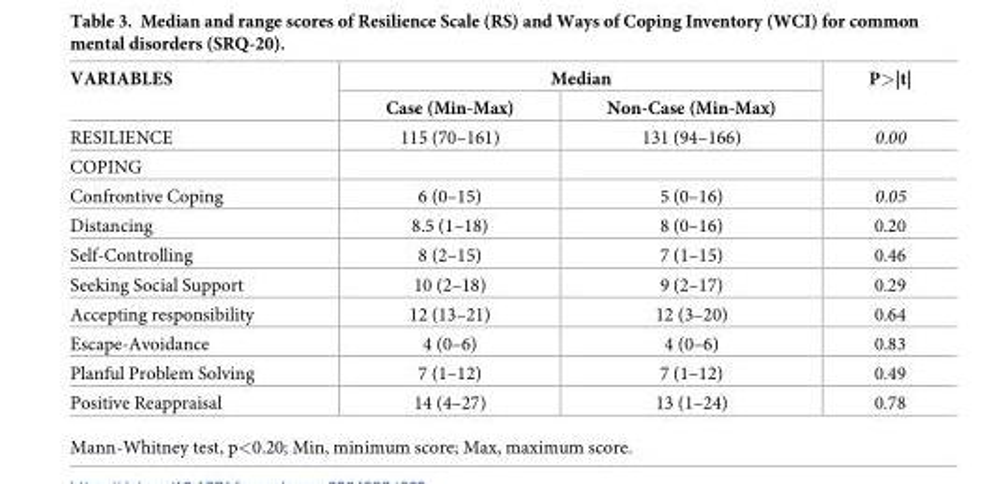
<table><thead><tr><td rowspan="2">VARIABLES</td><td colspan="2">Median</td><td rowspan="2">P&gt;|t|</td></tr><tr><td>Case (Min-Max)</td><td>Non-Case (Min-Max)</td></tr></thead><tbody><tr><td>RESILIENCE</td><td>115 (70–161)</td><td>131 (94–166)</td><td>0.00</td></tr><tr><td colspan="4">COPING</td></tr><tr><td>Confrontive Coping</td><td>6 (0–15)</td><td>5 (0–16)</td><td>0.05</td></tr><tr><td>Distancing</td><td>8.5 (1–18)</td><td>8 (0–16)</td><td>0.20</td></tr><tr><td>Self-Controlling</td><td>8 (2–15)</td><td>7 (1–15)</td><td>0.46</td></tr><tr><td>Seeking Social Support</td><td>10 (2–18)</td><td>9 (2–17)</td><td>0.29</td></tr><tr><td>Accepting responsibility</td><td>12 (13–21)</td><td>12 (3–20)</td><td>0.64</td></tr><tr><td>Escape-Avoidance</td><td>4 (0–6)</td><td>4 (0–6)</td><td>0.83</td></tr><tr><td>Planful Problem Solving</td><td>7 (1–12)</td><td>7 (1–12)</td><td>0.49</td></tr><tr><td>Positive Reappraisal</td><td>14 (4–27)</td><td>13 (1–24)</td><td>0.78</td></tr></tbody></table>